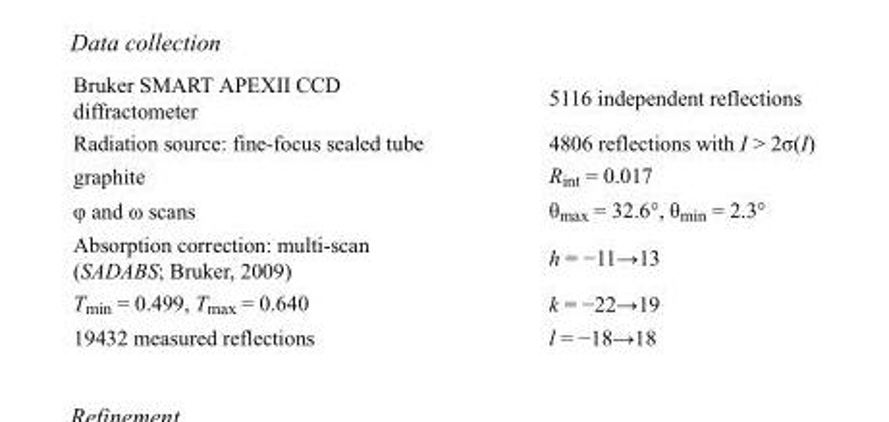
<table><tbody><tr><td>Bruker SMART APEXII CCD diffractometer</td><td>5116 independent reflections</td></tr><tr><td>Radiation source: fine-focus sealed tube</td><td>4806 reflections with I &gt; 2σ(I)</td></tr><tr><td>graphite</td><td>R<sub>int</sub> = 0.017</td></tr><tr><td>φ and ω scans</td><td>θ<sub>max</sub> = 32.6°, θ<sub>min</sub> = 2.3°</td></tr><tr><td>Absorption correction: multi-scan (SADABS; Bruker, 2009)</td><td>h = −11→13</td></tr><tr><td>T<sub>min</sub> = 0.499, T<sub>max</sub> = 0.640</td><td>k = −22→19</td></tr><tr><td>19432 measured reflections</td><td>l = −18→18</td></tr></tbody></table>